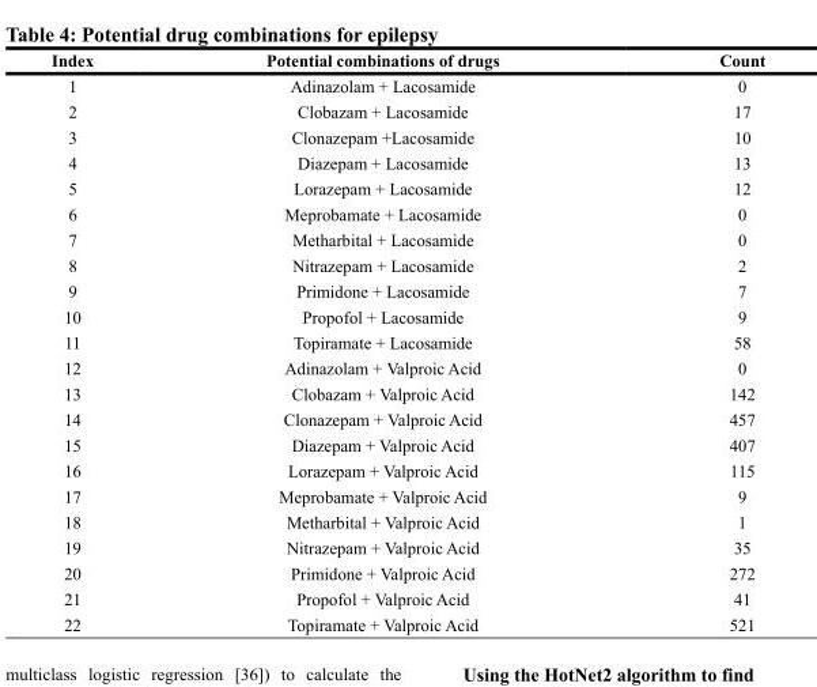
<table><thead><tr><td>Index</td><td>Potential combinations of drugs</td><td>Count</td></tr></thead><tbody><tr><td>1</td><td>Adinazolam + Lacosamide</td><td>0</td></tr><tr><td>2</td><td>Clobazam + Lacosamide</td><td>17</td></tr><tr><td>3</td><td>Clonazepam +Lacosamide</td><td>10</td></tr><tr><td>4</td><td>Diazepam + Lacosamide</td><td>13</td></tr><tr><td>5</td><td>Lorazepam + Lacosamide</td><td>12</td></tr><tr><td>6</td><td>Meprobamate + Lacosamide</td><td>0</td></tr><tr><td>7</td><td>Metharbital + Lacosamide</td><td>0</td></tr><tr><td>8</td><td>Nitrazepam + Lacosamide</td><td>2</td></tr><tr><td>9</td><td>Primidone + Lacosamide</td><td>7</td></tr><tr><td>10</td><td>Propofol + Lacosamide</td><td>9</td></tr><tr><td>11</td><td>Topiramate + Lacosamide</td><td>58</td></tr><tr><td>12</td><td>Adinazolam + Valproic Acid</td><td>0</td></tr><tr><td>13</td><td>Clobazam + Valproic Acid</td><td>142</td></tr><tr><td>14</td><td>Clonazepam + Valproic Acid</td><td>457</td></tr><tr><td>15</td><td>Diazepam + Valproic Acid</td><td>407</td></tr><tr><td>16</td><td>Lorazepam + Valproic Acid</td><td>115</td></tr><tr><td>17</td><td>Meprobamate + Valproic Acid</td><td>9</td></tr><tr><td>18</td><td>Metharbital + Valproic Acid</td><td>1</td></tr><tr><td>19</td><td>Nitrazepam + Valproic Acid</td><td>35</td></tr><tr><td>20</td><td>Primidone + Valproic Acid</td><td>272</td></tr><tr><td>21</td><td>Propofol + Valproic Acid</td><td>41</td></tr><tr><td>22</td><td>Topiramate + Valproic Acid</td><td>521</td></tr></tbody></table>